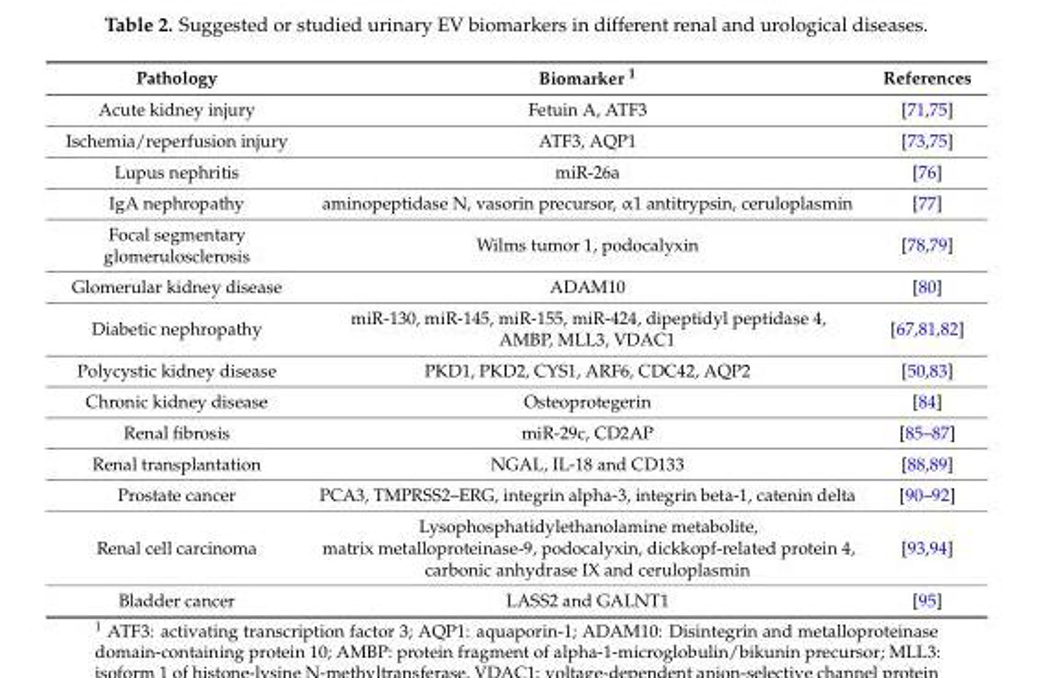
<table><thead><tr><td>Pathology</td><td>Biomarker <sup>1</sup></td><td>References</td></tr></thead><tbody><tr><td>Acute kidney injury</td><td>Fetuin A, ATF3</td><td>[71,75]</td></tr><tr><td>Ischemia/reperfusion injury</td><td>ATF3, AQP1</td><td>[73,75]</td></tr><tr><td>Lupus nephritis</td><td>miR-26a</td><td>[76]</td></tr><tr><td>IgA nephropathy</td><td>aminopeptidase N, vasorin precursor, α1 antitrypsin, ceruloplasmin</td><td>[77]</td></tr><tr><td>Focal segmentary glomerulosclerosis</td><td>Wilms tumor 1, podocalyxin</td><td>[78,79]</td></tr><tr><td>Glomerular kidney disease</td><td>ADAM10</td><td>[80]</td></tr><tr><td>Diabetic nephropathy</td><td>miR-130, miR-145, miR-155, miR-424, dipeptidyl peptidase 4, AMBP, MLL3, VDAC1</td><td>[67,81,82]</td></tr><tr><td>Polycystic kidney disease</td><td>PKD1, PKD2, CYS1, ARF6, CDC42, AQP2</td><td>[50,83]</td></tr><tr><td>Chronic kidney disease</td><td>Osteoprotegerin</td><td>[84]</td></tr><tr><td>Renal fibrosis</td><td>miR-29c, CD2AP</td><td>[85–87]</td></tr><tr><td>Renal transplantation</td><td>NGAL, IL-18 and CD133</td><td>[88,89]</td></tr><tr><td>Prostate cancer</td><td>PCA3, TMPRSS2–ERG, integrin alpha-3, integrin beta-1, catenin delta</td><td>[90–92]</td></tr><tr><td>Renal cell carcinoma</td><td>Lysophosphatidylethanolamine metabolite, matrix metalloproteinase-9, podocalyxin, dickkopf-related protein 4, carbonic anhydrase IX and ceruloplasmin</td><td>[93,94]</td></tr><tr><td>Bladder cancer</td><td>LASS2 and GALNT1</td><td>[95]</td></tr></tbody></table>